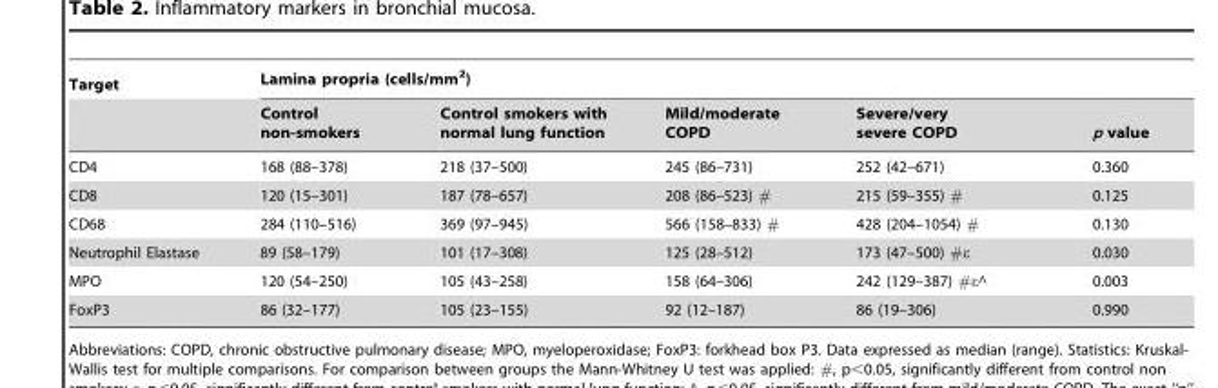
<table><thead><tr><td rowspan="2">Target</td><td colspan="5">Lamina propria (cells/mm<sup>2</sup>)</td></tr><tr><td>Control non-smokers</td><td>Control smokers with normal lung function</td><td>Mild/moderate COPD</td><td>Severe/very severe COPD</td><td>p value</td></tr></thead><tbody><tr><td>CD4</td><td>168 (88–378)</td><td>218 (37–500)</td><td>245 (86–731)</td><td>252 (42–671)</td><td>0.360</td></tr><tr><td>CD8</td><td>120 (15–301)</td><td>187 (78–657)</td><td>208 (86–523) #</td><td>215 (59–355) #</td><td>0.125</td></tr><tr><td>CD68</td><td>284 (110–516)</td><td>369 (97–945)</td><td>566 (158–833) #</td><td>428 (204–1054) #</td><td>0.130</td></tr><tr><td>Neutrophil Elastase</td><td>89 (58–179)</td><td>101 (17–308)</td><td>125 (28–512)</td><td>173 (47–500) #ε</td><td>0.030</td></tr><tr><td>MPO</td><td>120 (54–250)</td><td>105 (43–258)</td><td>158 (64–306)</td><td>242 (129–387) #e^</td><td>0.003</td></tr><tr><td>FoxP3</td><td>86 (32–177)</td><td>105 (23–155)</td><td>92 (12–187)</td><td>86 (19–306)</td><td>0.990</td></tr></tbody></table>